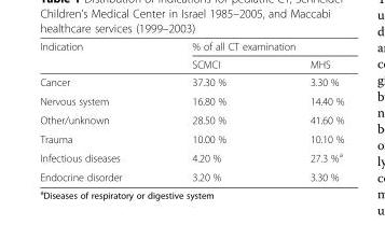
<table><thead><tr><td rowspan="2">Indication</td><td colspan="2">% of all CT examination</td></tr><tr><td>SCMCI</td><td>MHS</td></tr></thead><tbody><tr><td>Cancer</td><td>37.30 %</td><td>3.30 %</td></tr><tr><td>Nervous system</td><td>16.80 %</td><td>14.40 %</td></tr><tr><td>Other/unknown</td><td>28.50 %</td><td>41.60 %</td></tr><tr><td>Trauma</td><td>10.00 %</td><td>10.10 %</td></tr><tr><td>Infectious diseases</td><td>4.20 %</td><td>27.3 %<sup>a</sup></td></tr><tr><td>Endocrine disorder</td><td>3.20 %</td><td>3.30 %</td></tr></tbody></table>